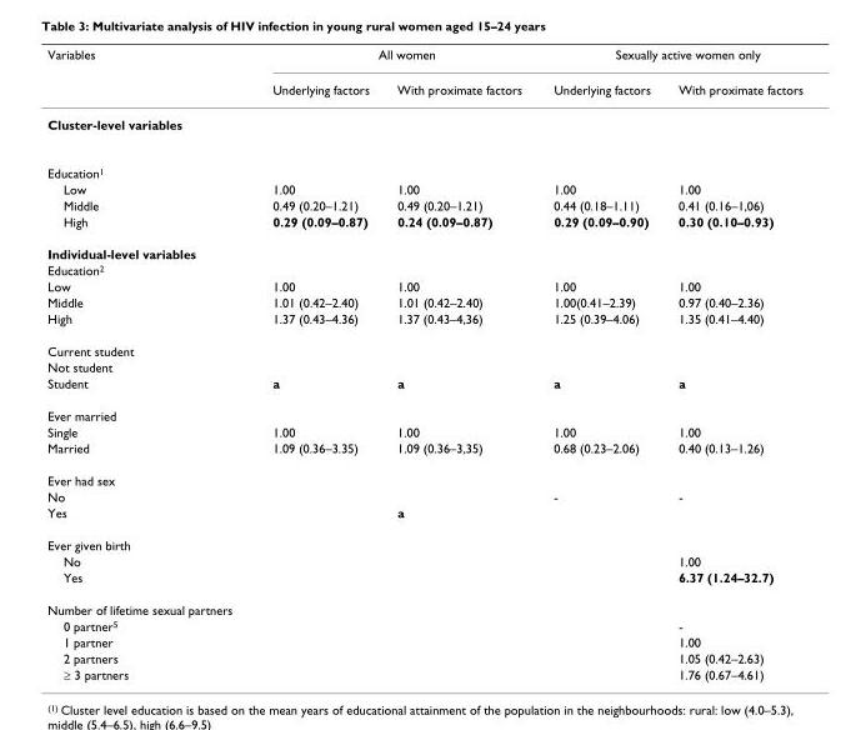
<table><thead><tr><td rowspan="2">Variables</td><td colspan="2">All women</td><td colspan="2">Sexually active women only</td></tr><tr><td>Underlying factors</td><td>With proximate factors</td><td>Underlying factors</td><td>With proximate factors</td></tr></thead><tbody><tr><td colspan="5">Cluster-level variables</td></tr><tr><td colspan="5">Education<sup>1</sup></td></tr><tr><td>Low</td><td>1.00</td><td>1.00</td><td>1.00</td><td>1.00</td></tr><tr><td>Middle</td><td>0.49 (0.20–1.21)</td><td>0.49 (0.20–1.21)</td><td>0.44 (0.18–1.11)</td><td>0.41 (0.16–1,06)</td></tr><tr><td>High</td><td>0.29 (0.09–0.87)</td><td>0.24 (0.09–0.87)</td><td>0.29 (0.09–0.90)</td><td>0.30 (0.10–0.93)</td></tr><tr><td colspan="5">Individual-level variables</td></tr><tr><td colspan="5">Education<sup>2</sup></td></tr><tr><td>Low</td><td>1.00</td><td>1.00</td><td>1.00</td><td>1.00</td></tr><tr><td>Middle</td><td>1.01 (0.42–2.40)</td><td>1.01 (0.42–2.40)</td><td>1.00(0.41–2.39)</td><td>0.97 (0.40–2.36)</td></tr><tr><td>High</td><td>1.37 (0.43–4.36)</td><td>1.37 (0.43–4,36)</td><td>1.25 (0.39–4.06)</td><td>1.35 (0.41–4.40)</td></tr><tr><td colspan="5">Current student</td></tr><tr><td colspan="5">Not student</td></tr><tr><td>Student</td><td>a</td><td>a</td><td>a</td><td>a</td></tr><tr><td colspan="5">Ever married</td></tr><tr><td>Single</td><td>1.00</td><td>1.00</td><td>1.00</td><td>1.00</td></tr><tr><td>Married</td><td>1.09 (0.36–3.35)</td><td>1.09 (0.36–3,35)</td><td>0.68 (0.23–2.06)</td><td>0.40 (0.13–1.26)</td></tr><tr><td colspan="5">Ever had sex</td></tr><tr><td>No</td><td></td><td></td><td>-</td><td>-</td></tr><tr><td>Yes</td><td></td><td>a</td><td></td><td></td></tr><tr><td colspan="5">Ever given birth</td></tr><tr><td>No</td><td></td><td></td><td></td><td>1.00</td></tr><tr><td>Yes</td><td></td><td></td><td></td><td>6.37 (1.24–32.7)</td></tr><tr><td colspan="5">Number of lifetime sexual partners</td></tr><tr><td>0 partner<sup>5</sup></td><td></td><td></td><td></td><td>-</td></tr><tr><td>1 partner</td><td></td><td></td><td></td><td>1.00</td></tr><tr><td>2 partners</td><td></td><td></td><td></td><td>1.05 (0.42–2.63)</td></tr><tr><td>≥ 3 partners</td><td></td><td></td><td></td><td>1.76 (0.67–4.61)</td></tr></tbody></table>